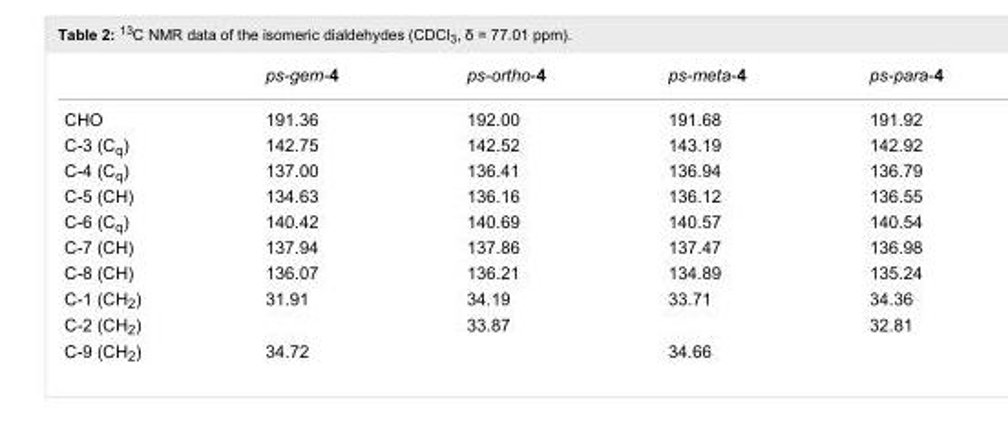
<table><thead><tr><td></td><td>ps-gem-4</td><td>ps-ortho-4</td><td>ps-meta-4</td><td>ps-para-4</td></tr></thead><tbody><tr><td>CHO</td><td>191.36</td><td>192.00</td><td>191.68</td><td>191.92</td></tr><tr><td>C-3 (C<sub>q</sub>)</td><td>142.75</td><td>142.52</td><td>143.19</td><td>142.92</td></tr><tr><td>C-4 (C<sub>q</sub>)</td><td>137.00</td><td>136.41</td><td>136.94</td><td>136.79</td></tr><tr><td>C-5 (CH)</td><td>134.63</td><td>136.16</td><td>136.12</td><td>136.55</td></tr><tr><td>C-6 (C<sub>q</sub>)</td><td>140.42</td><td>140.69</td><td>140.57</td><td>140.54</td></tr><tr><td>C-7 (CH)</td><td>137.94</td><td>137.86</td><td>137.47</td><td>136.98</td></tr><tr><td>C-8 (CH)</td><td>136.07</td><td>136.21</td><td>134.89</td><td>135.24</td></tr><tr><td>C-1 (CH<sub>2</sub>)</td><td>31.91</td><td>34.19</td><td>33.71</td><td>34.36</td></tr><tr><td>C-2 (CH<sub>2</sub>)</td><td></td><td>33.87</td><td></td><td>32.81</td></tr><tr><td>C-9 (CH<sub>2</sub>)</td><td>34.72</td><td></td><td>34.66</td><td></td></tr></tbody></table>